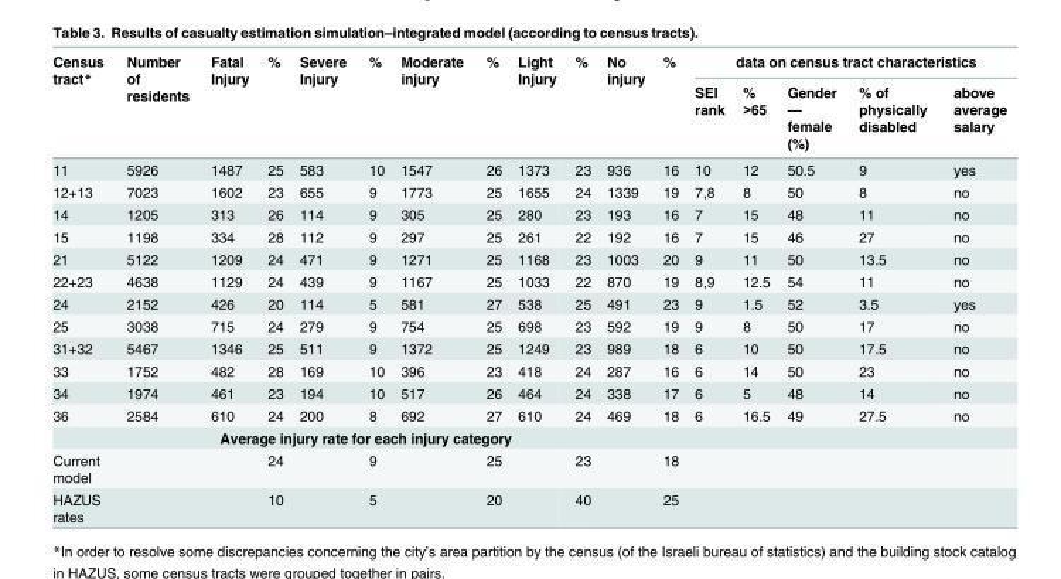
<table><thead><tr><td rowspan="2">Census tract*</td><td rowspan="2">Number of residents</td><td rowspan="2">Fatal Injury</td><td rowspan="2">%</td><td rowspan="2">Severe Injury</td><td rowspan="2">%</td><td rowspan="2">Moderate injury</td><td rowspan="2">%</td><td rowspan="2">Light Injury</td><td rowspan="2">%</td><td rowspan="2">No injury</td><td rowspan="2">%</td><td colspan="5">data on census tract characteristics</td></tr><tr><td>SEI rank</td><td>% &gt;65</td><td>Gender — female (%)</td><td>% of physically disabled</td><td>above average salary</td></tr></thead><tbody><tr><td>11</td><td>5926</td><td>1487</td><td>25</td><td>583</td><td>10</td><td>1547</td><td>26</td><td>1373</td><td>23</td><td>936</td><td>16</td><td>10</td><td>12</td><td>50.5</td><td>9</td><td>yes</td></tr><tr><td>12+13</td><td>7023</td><td>1602</td><td>23</td><td>655</td><td>9</td><td>1773</td><td>25</td><td>1655</td><td>24</td><td>1339</td><td>19</td><td>7,8</td><td>8</td><td>50</td><td>8</td><td>no</td></tr><tr><td>14</td><td>1205</td><td>313</td><td>26</td><td>114</td><td>9</td><td>305</td><td>25</td><td>280</td><td>23</td><td>193</td><td>16</td><td>7</td><td>15</td><td>48</td><td>11</td><td>no</td></tr><tr><td>15</td><td>1198</td><td>334</td><td>28</td><td>112</td><td>9</td><td>297</td><td>25</td><td>261</td><td>22</td><td>192</td><td>16</td><td>7</td><td>15</td><td>46</td><td>27</td><td>no</td></tr><tr><td>21</td><td>5122</td><td>1209</td><td>24</td><td>471</td><td>9</td><td>1271</td><td>25</td><td>1168</td><td>23</td><td>1003</td><td>20</td><td>9</td><td>11</td><td>50</td><td>13.5</td><td>no</td></tr><tr><td>22+23</td><td>4638</td><td>1129</td><td>24</td><td>439</td><td>9</td><td>1167</td><td>25</td><td>1033</td><td>22</td><td>870</td><td>19</td><td>8,9</td><td>12.5</td><td>54</td><td>11</td><td>no</td></tr><tr><td>24</td><td>2152</td><td>426</td><td>20</td><td>114</td><td>5</td><td>581</td><td>27</td><td>538</td><td>25</td><td>491</td><td>23</td><td>9</td><td>1.5</td><td>52</td><td>3.5</td><td>yes</td></tr><tr><td>25</td><td>3038</td><td>715</td><td>24</td><td>279</td><td>9</td><td>754</td><td>25</td><td>698</td><td>23</td><td>592</td><td>19</td><td>9</td><td>8</td><td>50</td><td>17</td><td>no</td></tr><tr><td>31+32</td><td>5467</td><td>1346</td><td>25</td><td>511</td><td>9</td><td>1372</td><td>25</td><td>1249</td><td>23</td><td>989</td><td>18</td><td>6</td><td>10</td><td>50</td><td>17.5</td><td>no</td></tr><tr><td>33</td><td>1752</td><td>482</td><td>28</td><td>169</td><td>10</td><td>396</td><td>23</td><td>418</td><td>24</td><td>287</td><td>16</td><td>6</td><td>14</td><td>50</td><td>23</td><td>no</td></tr><tr><td>34</td><td>1974</td><td>461</td><td>23</td><td>194</td><td>10</td><td>517</td><td>26</td><td>464</td><td>24</td><td>338</td><td>17</td><td>6</td><td>5</td><td>48</td><td>14</td><td>no</td></tr><tr><td>36</td><td>2584</td><td>610</td><td>24</td><td>200</td><td>8</td><td>692</td><td>27</td><td>610</td><td>24</td><td>469</td><td>18</td><td>6</td><td>16.5</td><td>49</td><td>27.5</td><td>no</td></tr><tr><td colspan="17">Average injury rate for each injury category</td></tr><tr><td>Current model</td><td></td><td></td><td>24</td><td></td><td>9</td><td></td><td>25</td><td></td><td>23</td><td></td><td>18</td><td colspan="5"></td></tr><tr><td>HAZUS rates</td><td></td><td></td><td>10</td><td></td><td>5</td><td></td><td>20</td><td></td><td>40</td><td></td><td>25</td><td colspan="5"></td></tr></tbody></table>